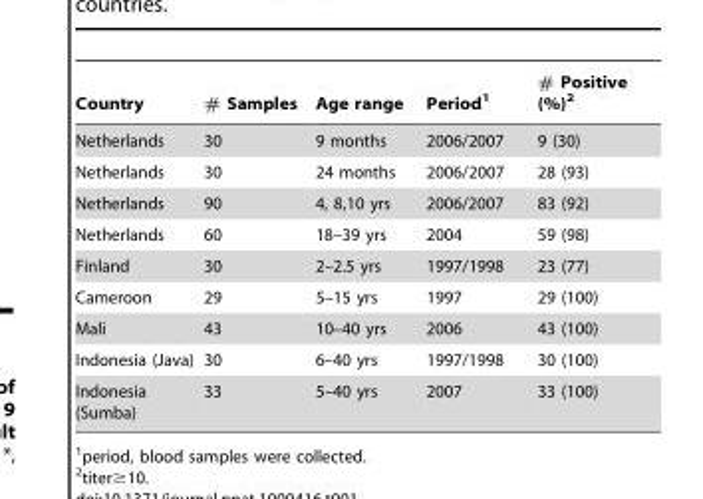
<table><thead><tr><td>Country</td><td># Samples</td><td>Age range</td><td>Period<sup>1</sup></td><td># Positive (%)<sup>2</sup></td></tr></thead><tbody><tr><td>Netherlands</td><td>30</td><td>9 months</td><td>2006/2007</td><td>9 (30)</td></tr><tr><td>Netherlands</td><td>30</td><td>24 months</td><td>2006/2007</td><td>28 (93)</td></tr><tr><td>Netherlands</td><td>90</td><td>4, 8,10 yrs</td><td>2006/2007</td><td>83 (92)</td></tr><tr><td>Netherlands</td><td>60</td><td>18–39 yrs</td><td>2004</td><td>59 (98)</td></tr><tr><td>Finland</td><td>30</td><td>2–2.5 yrs</td><td>1997/1998</td><td>23 (77)</td></tr><tr><td>Cameroon</td><td>29</td><td>5–15 yrs</td><td>1997</td><td>29 (100)</td></tr><tr><td>Mali</td><td>43</td><td>10–40 yrs</td><td>2006</td><td>43 (100)</td></tr><tr><td>Indonesia (Java)</td><td>30</td><td>6–40 yrs</td><td>1997/1998</td><td>30 (100)</td></tr><tr><td>Indonesia (Sumba)</td><td>33</td><td>5–40 yrs</td><td>2007</td><td>33 (100)</td></tr></tbody></table>